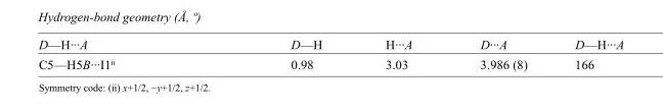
<table><tbody><tr><td>D—H···A</td><td>D—H</td><td>H···A</td><td>D···A</td><td>D—H···A</td></tr><tr><td>C5—H5B···I1<sup>ii</sup></td><td>0.98</td><td>3.03</td><td>3.986 (8)</td><td>166</td></tr></tbody></table>